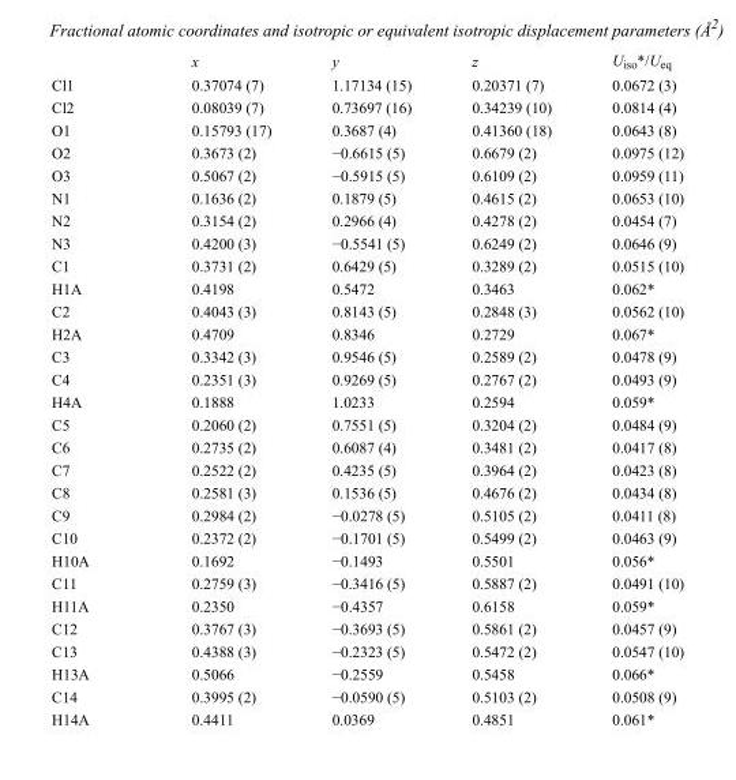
<table><thead><tr><td></td><td>x</td><td>y</td><td>z</td><td>U<sub>iso</sub>*/U<sub>eq</sub></td></tr></thead><tbody><tr><td>Cl1</td><td>0.37074 (7)</td><td>1.17134 (15)</td><td>0.20371 (7)</td><td>0.0672 (3)</td></tr><tr><td>Cl2</td><td>0.08039 (7)</td><td>0.73697 (16)</td><td>0.34239 (10)</td><td>0.0814 (4)</td></tr><tr><td>O1</td><td>0.15793 (17)</td><td>0.3687 (4)</td><td>0.41360 (18)</td><td>0.0643 (8)</td></tr><tr><td>O2</td><td>0.3673 (2)</td><td>−0.6615 (5)</td><td>0.6679 (2)</td><td>0.0975 (12)</td></tr><tr><td>O3</td><td>0.5067 (2)</td><td>−0.5915 (5)</td><td>0.6109 (2)</td><td>0.0959 (11)</td></tr><tr><td>N1</td><td>0.1636 (2)</td><td>0.1879 (5)</td><td>0.4615 (2)</td><td>0.0653 (10)</td></tr><tr><td>N2</td><td>0.3154 (2)</td><td>0.2966 (4)</td><td>0.4278 (2)</td><td>0.0454 (7)</td></tr><tr><td>N3</td><td>0.4200 (3)</td><td>−0.5541 (5)</td><td>0.6249 (2)</td><td>0.0646 (9)</td></tr><tr><td>C1</td><td>0.3731 (2)</td><td>0.6429 (5)</td><td>0.3289 (2)</td><td>0.0515 (10)</td></tr><tr><td>H1A</td><td>0.4198</td><td>0.5472</td><td>0.3463</td><td>0.062*</td></tr><tr><td>C2</td><td>0.4043 (3)</td><td>0.8143 (5)</td><td>0.2848 (3)</td><td>0.0562 (10)</td></tr><tr><td>H2A</td><td>0.4709</td><td>0.8346</td><td>0.2729</td><td>0.067*</td></tr><tr><td>C3</td><td>0.3342 (3)</td><td>0.9546 (5)</td><td>0.2589 (2)</td><td>0.0478 (9)</td></tr><tr><td>C4</td><td>0.2351 (3)</td><td>0.9269 (5)</td><td>0.2767 (2)</td><td>0.0493 (9)</td></tr><tr><td>H4A</td><td>0.1888</td><td>1.0233</td><td>0.2594</td><td>0.059*</td></tr><tr><td>C5</td><td>0.2060 (2)</td><td>0.7551 (5)</td><td>0.3204 (2)</td><td>0.0484 (9)</td></tr><tr><td>C6</td><td>0.2735 (2)</td><td>0.6087 (4)</td><td>0.3481 (2)</td><td>0.0417 (8)</td></tr><tr><td>C7</td><td>0.2522 (2)</td><td>0.4235 (5)</td><td>0.3964 (2)</td><td>0.0423 (8)</td></tr><tr><td>C8</td><td>0.2581 (3)</td><td>0.1536 (5)</td><td>0.4676 (2)</td><td>0.0434 (8)</td></tr><tr><td>C9</td><td>0.2984 (2)</td><td>−0.0278 (5)</td><td>0.5105 (2)</td><td>0.0411 (8)</td></tr><tr><td>C10</td><td>0.2372 (2)</td><td>−0.1701 (5)</td><td>0.5499 (2)</td><td>0.0463 (9)</td></tr><tr><td>H10A</td><td>0.1692</td><td>−0.1493</td><td>0.5501</td><td>0.056*</td></tr><tr><td>C11</td><td>0.2759 (3)</td><td>−0.3416 (5)</td><td>0.5887 (2)</td><td>0.0491 (10)</td></tr><tr><td>H11A</td><td>0.2350</td><td>−0.4357</td><td>0.6158</td><td>0.059*</td></tr><tr><td>C12</td><td>0.3767 (3)</td><td>−0.3693 (5)</td><td>0.5861 (2)</td><td>0.0457 (9)</td></tr><tr><td>C13</td><td>0.4388 (3)</td><td>−0.2323 (5)</td><td>0.5472 (2)</td><td>0.0547 (10)</td></tr><tr><td>H13A</td><td>0.5066</td><td>−0.2559</td><td>0.5458</td><td>0.066*</td></tr><tr><td>C14</td><td>0.3995 (2)</td><td>−0.0590 (5)</td><td>0.5103 (2)</td><td>0.0508 (9)</td></tr><tr><td>H14A</td><td>0.4411</td><td>0.0369</td><td>0.4851</td><td>0.061*</td></tr></tbody></table>